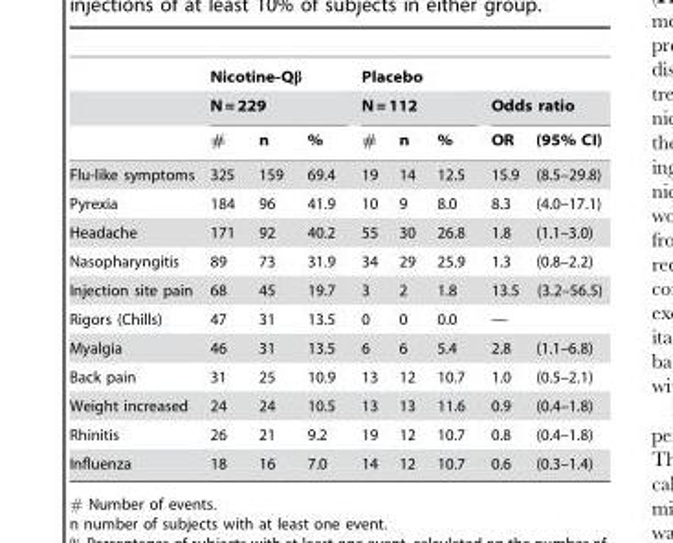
<table><thead><tr><td rowspan="3"></td><td rowspan="2" colspan="3">Nicotine-Qβ N = 229</td><td rowspan="2" colspan="3">Placebo N = 112</td><td rowspan="3">Odds ratio OR (95% CI)</td></tr><tr></tr><tr><td>#</td><td>n</td><td>%</td><td>#</td><td>n</td><td>%</td></tr></thead><tbody><tr><td>Flu-like symptoms</td><td>325</td><td>159</td><td>69.4</td><td>19</td><td>14</td><td>12.5</td><td>15.9 (8.5–29.8)</td></tr><tr><td>Pyrexia</td><td>184</td><td>96</td><td>41.9</td><td>10</td><td>9</td><td>8.0</td><td>8.3 (4.0–17.1)</td></tr><tr><td>Headache</td><td>171</td><td>92</td><td>40.2</td><td>55</td><td>30</td><td>26.8</td><td>1.8 (1.1–3.0)</td></tr><tr><td>Nasopharyngitis</td><td>89</td><td>73</td><td>31.9</td><td>34</td><td>29</td><td>25.9</td><td>1.3 (0.8–2.2)</td></tr><tr><td>Injection site pain</td><td>68</td><td>45</td><td>19.7</td><td>3</td><td>2</td><td>1.8</td><td>13.5 (3.2–56.5)</td></tr><tr><td>Rigors (Chills)</td><td>47</td><td>31</td><td>13.5</td><td>0</td><td>0</td><td>0.0</td><td>—</td></tr><tr><td>Myalgia</td><td>46</td><td>31</td><td>13.5</td><td>6</td><td>6</td><td>5.4</td><td>2.8 (1.1–6.8)</td></tr><tr><td>Back pain</td><td>31</td><td>25</td><td>10.9</td><td>13</td><td>12</td><td>10.7</td><td>1.0 (0.5–2.1)</td></tr><tr><td>Weight increased</td><td>24</td><td>24</td><td>10.5</td><td>13</td><td>13</td><td>11.6</td><td>0.9 (0.4–1.8)</td></tr><tr><td>Rhinitis</td><td>26</td><td>21</td><td>9.2</td><td>19</td><td>12</td><td>10.7</td><td>0.8 (0.4–1.8)</td></tr><tr><td>Influenza</td><td>18</td><td>16</td><td>7.0</td><td>14</td><td>12</td><td>10.7</td><td>0.6 (0.3–1.4)</td></tr></tbody></table>